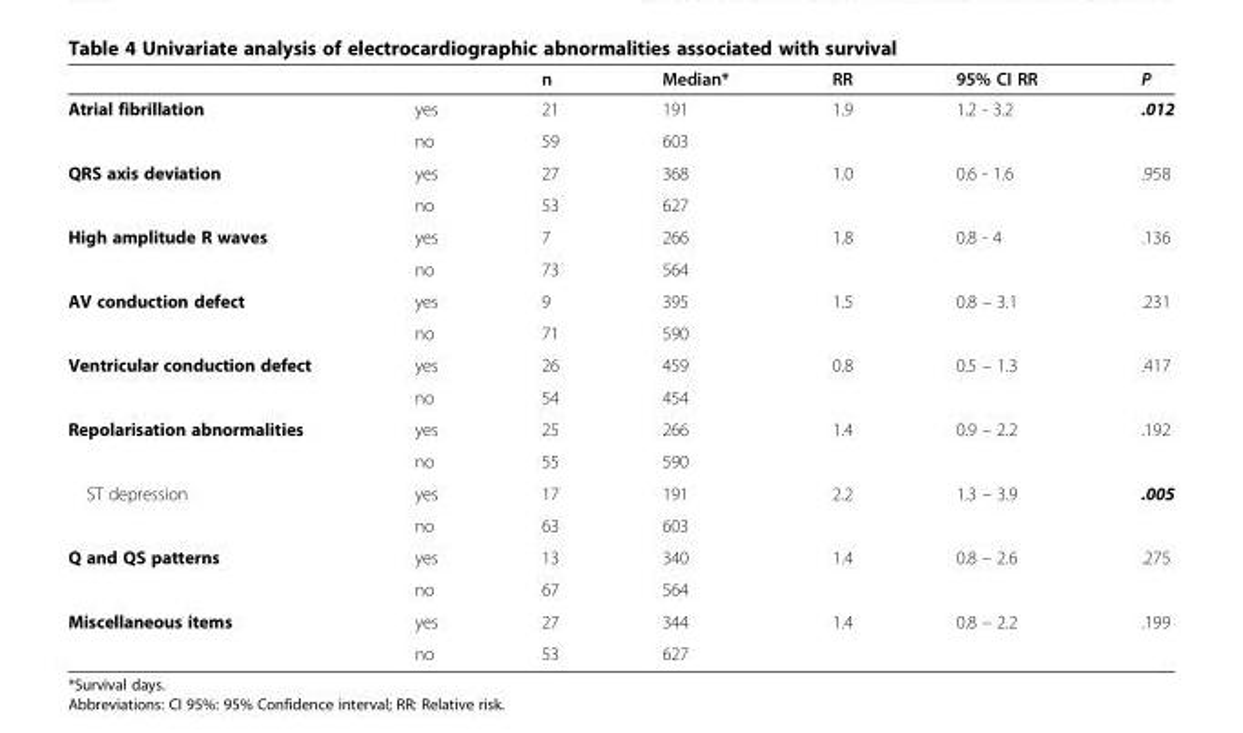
<table><thead><tr><td></td><td></td><td>n</td><td>Median*</td><td>RR</td><td>95% CI RR</td><td>P</td></tr></thead><tbody><tr><td rowspan="2">Atrial fibrillation</td><td>yes</td><td>21</td><td>191</td><td rowspan="2">1.9</td><td rowspan="2">1.2 - 3.2</td><td rowspan="2">.012</td></tr><tr><td>no</td><td>59</td><td>603</td></tr><tr><td rowspan="2">QRS axis deviation</td><td>yes</td><td>27</td><td>368</td><td>1.0</td><td>0.6 - 1.6</td><td>.958</td></tr><tr><td>no</td><td>53</td><td>627</td><td></td><td></td><td></td></tr><tr><td rowspan="2">High amplitude R waves</td><td>yes</td><td>7</td><td>266</td><td>1.8</td><td>0.8 - 4</td><td>.136</td></tr><tr><td>no</td><td>73</td><td>564</td><td></td><td></td><td></td></tr><tr><td rowspan="2">AV conduction defect</td><td>yes</td><td>9</td><td>395</td><td>1.5</td><td>0.8 – 3.1</td><td>.231</td></tr><tr><td>no</td><td>71</td><td>590</td><td></td><td></td><td></td></tr><tr><td rowspan="2">Ventricular conduction defect</td><td>yes</td><td>26</td><td>459</td><td>0.8</td><td>0.5 – 1.3</td><td>.417</td></tr><tr><td>no</td><td>54</td><td>454</td><td></td><td></td><td></td></tr><tr><td rowspan="2">Repolarisation abnormalities</td><td>yes</td><td>25</td><td>266</td><td>1.4</td><td>0.9 – 2.2</td><td>.192</td></tr><tr><td>no</td><td>55</td><td>590</td><td></td><td></td><td></td></tr><tr><td rowspan="2">ST depression</td><td>yes</td><td>17</td><td>191</td><td>2.2</td><td>1.3 – 3.9</td><td>.005</td></tr><tr><td>no</td><td>63</td><td>603</td><td></td><td></td><td></td></tr><tr><td rowspan="2">Q and QS patterns</td><td>yes</td><td>13</td><td>340</td><td>1.4</td><td>0.8 – 2.6</td><td>.275</td></tr><tr><td>no</td><td>67</td><td>564</td><td></td><td></td><td></td></tr><tr><td rowspan="2">Miscellaneous items</td><td>yes</td><td>27</td><td>344</td><td>1.4</td><td>0.8 – 2.2</td><td>.199</td></tr><tr><td>no</td><td>53</td><td>627</td><td></td><td></td><td></td></tr></tbody></table>